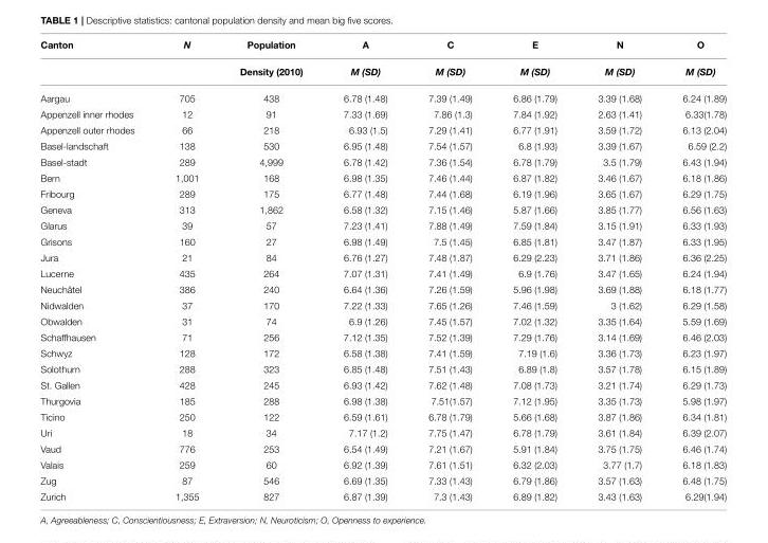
<table><thead><tr><td rowspan="2">Canton</td><td rowspan="2">N</td><td rowspan="2">Population Density (2010)</td><td rowspan="2">A M (SD)</td><td rowspan="2">C M (SD)</td><td rowspan="2">E M (SD)</td><td rowspan="2">N M (SD)</td><td rowspan="2">O M (SD)</td></tr><tr></tr></thead><tbody><tr><td>Aargau</td><td>705</td><td>438</td><td>6.78 (1.48)</td><td>7.39 (1.49)</td><td>6.86 (1.79)</td><td>3.39 (1.68)</td><td>6.24 (1.89)</td></tr><tr><td>Appenzell inner rhodes</td><td>12</td><td>91</td><td>7.33 (1.69)</td><td>7.86 (1.3)</td><td>7.84 (1.92)</td><td>2.63 (1.41)</td><td>6.33(1.78)</td></tr><tr><td>Appenzell outer rhodes</td><td>66</td><td>218</td><td>6.93 (1.5)</td><td>7.29 (1.41)</td><td>6.77 (1.91)</td><td>3.59 (1.72)</td><td>6.13 (2.04)</td></tr><tr><td>Basel-landschaft</td><td>138</td><td>530</td><td>6.95 (1.48)</td><td>7.54 (1.57)</td><td>6.8 (1.93)</td><td>3.39 (1.67)</td><td>6.59 (2.2)</td></tr><tr><td>Basel-stadt</td><td>289</td><td>4,999</td><td>6.78 (1.42)</td><td>7.36 (1.54)</td><td>6.78 (1.79)</td><td>3.5 (1.79)</td><td>6.43 (1.94)</td></tr><tr><td>Bern</td><td>1,001</td><td>168</td><td>6.98 (1.35)</td><td>7.46 (1.44)</td><td>6.87 (1.82)</td><td>3.46 (1.67)</td><td>6.18 (1.86)</td></tr><tr><td>Fribourg</td><td>289</td><td>175</td><td>6.77 (1.48)</td><td>7.44 (1.68)</td><td>6.19 (1.96)</td><td>3.65 (1.67)</td><td>6.29 (1.75)</td></tr><tr><td>Geneva</td><td>313</td><td>1,862</td><td>6.58 (1.32)</td><td>7.15 (1.46)</td><td>5.87 (1.66)</td><td>3.85 (1.77)</td><td>6.56 (1.63)</td></tr><tr><td>Glarus</td><td>39</td><td>57</td><td>7.23 (1.41)</td><td>7.88 (1.49)</td><td>7.59 (1.84)</td><td>3.15 (1.91)</td><td>6.33 (1.93)</td></tr><tr><td>Grisons</td><td>160</td><td>27</td><td>6.98 (1.49)</td><td>7.5 (1.45)</td><td>6.85 (1.81)</td><td>3.47 (1.87)</td><td>6.33 (1.95)</td></tr><tr><td>Jura</td><td>21</td><td>84</td><td>6.76 (1.27)</td><td>7.48 (1.87)</td><td>6.29 (2.23)</td><td>3.71 (1.86)</td><td>6.36 (2.25)</td></tr><tr><td>Lucerne</td><td>435</td><td>264</td><td>7.07 (1.31)</td><td>7.41 (1.49)</td><td>6.9 (1.76)</td><td>3.47 (1.65)</td><td>6.24 (1.94)</td></tr><tr><td>Neuchâtel</td><td>386</td><td>240</td><td>6.64 (1.36)</td><td>7.26 (1.59)</td><td>5.96 (1.98)</td><td>3.69 (1.88)</td><td>6.18 (1.77)</td></tr><tr><td>Nidwalden</td><td>37</td><td>170</td><td>7.22 (1.33)</td><td>7.65 (1.26)</td><td>7.46 (1.59)</td><td>3 (1.62)</td><td>6.29 (1.58)</td></tr><tr><td>Obwalden</td><td>31</td><td>74</td><td>6.9 (1.26)</td><td>7.45 (1.57)</td><td>7.02 (1.32)</td><td>3.35 (1.64)</td><td>5.59 (1.69)</td></tr><tr><td>Schaffhausen</td><td>71</td><td>256</td><td>7.12 (1.35)</td><td>7.52 (1.39)</td><td>7.29 (1.76)</td><td>3.14 (1.69)</td><td>6.46 (2.03)</td></tr><tr><td>Schwyz</td><td>128</td><td>172</td><td>6.58 (1.38)</td><td>7.41 (1.59)</td><td>7.19 (1.6)</td><td>3.36 (1.73)</td><td>6.23 (1.97)</td></tr><tr><td>Solothurn</td><td>288</td><td>323</td><td>6.85 (1.48)</td><td>7.51 (1.43)</td><td>6.89 (1.8)</td><td>3.57 (1.78)</td><td>6.15 (1.89)</td></tr><tr><td>St. Gallen</td><td>428</td><td>245</td><td>6.93 (1.42)</td><td>7.62 (1.48)</td><td>7.08 (1.73)</td><td>3.21 (1.74)</td><td>6.29 (1.73)</td></tr><tr><td>Thurgovia</td><td>185</td><td>288</td><td>6.98 (1.38)</td><td>7.51(1.57)</td><td>7.12 (1.95)</td><td>3.35 (1.73)</td><td>5.98 (1.97)</td></tr><tr><td>Ticino</td><td>250</td><td>122</td><td>6.59 (1.61)</td><td>6.78 (1.79)</td><td>5.66 (1.68)</td><td>3.87 (1.86)</td><td>6.34 (1.81)</td></tr><tr><td>Uri</td><td>18</td><td>34</td><td>7.17 (1.2)</td><td>7.75 (1.47)</td><td>6.78 (1.79)</td><td>3.61 (1.84)</td><td>6.39 (2.07)</td></tr><tr><td>Vaud</td><td>776</td><td>253</td><td>6.54 (1.49)</td><td>7.21 (1.67)</td><td>5.91 (1.84)</td><td>3.75 (1.75)</td><td>6.46 (1.74)</td></tr><tr><td>Valais</td><td>259</td><td>60</td><td>6.92 (1.39)</td><td>7.61 (1.51)</td><td>6.32 (2.03)</td><td>3.77 (1.7)</td><td>6.18 (1.83)</td></tr><tr><td>Zug</td><td>87</td><td>546</td><td>6.69 (1.35)</td><td>7.33 (1.43)</td><td>6.79 (1.86)</td><td>3.57 (1.63)</td><td>6.48 (1.75)</td></tr><tr><td>Zurich</td><td>1,355</td><td>827</td><td>6.87 (1.39)</td><td>7.3 (1.43)</td><td>6.89 (1.82)</td><td>3.43 (1.63)</td><td>6.29(1.94)</td></tr></tbody></table>